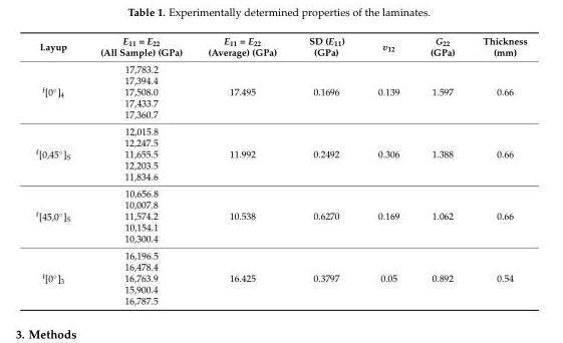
<table><thead><tr><td>Layup</td><td>E<sub>11</sub> = E<sub>22</sub> (All Sample) (GPa)</td><td>E<sub>11</sub> = E<sub>22</sub> (Average) (GPa)</td><td>SD (E<sub>11</sub>) (GPa)</td><td>υ12</td><td>G<sub>22</sub> (GPa)</td><td>Thickness (mm)</td></tr></thead><tbody><tr><td>f[0◦]4</td><td>17,783.2 17,394.4 17,508.0 17,433.7 17,360.7</td><td>17.495</td><td>0.1696</td><td>0.139</td><td>1.597</td><td>0.66</td></tr><tr><td>f[0,45◦]S</td><td>12,015.8 12,247.5 11,655.5 12,203.5 11,834.6</td><td>11.992</td><td>0.2492</td><td>0.306</td><td>1.388</td><td>0.66</td></tr><tr><td>f[45,0◦]S</td><td>10,656.8 10,007.8 11,574.2 10,154.1 10,300.4</td><td>10.538</td><td>0.6270</td><td>0.169</td><td>1.062</td><td>0.66</td></tr><tr><td>f[0◦]3</td><td>16,196.5 16,478.4 16,763.9 15,900.4 16,787.5</td><td>16.425</td><td>0.3797</td><td>0.05</td><td>0.892</td><td>0.54</td></tr></tbody></table>